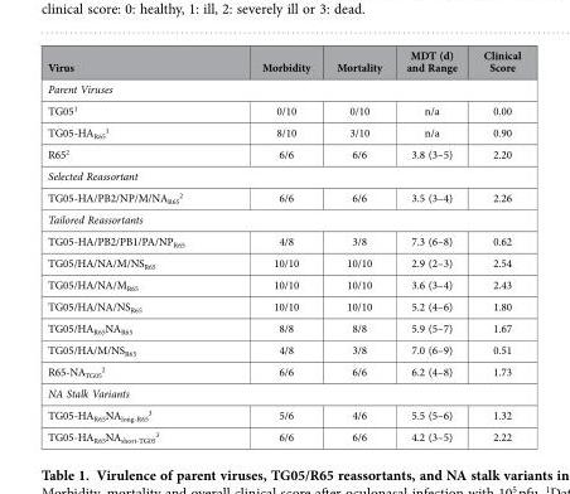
<table><thead><tr><td>Virus</td><td>Morbidity</td><td>Mortality</td><td>MDT (d) and Range</td><td>Clinical Score</td></tr></thead><tbody><tr><td colspan="5">Parent Viruses</td></tr><tr><td>TG05<sup>1</sup></td><td>0/10</td><td>0/10</td><td>n/a</td><td>0.00</td></tr><tr><td>TG05-HA<sub>R65</sub> <sup>1</sup></td><td>8/10</td><td>3/10</td><td>n/a</td><td>0.90</td></tr><tr><td>R65<sup>2</sup></td><td>6/6</td><td>6/6</td><td>3.8 (3–5)</td><td>2.20</td></tr><tr><td colspan="5">Selected Reassortant</td></tr><tr><td>TG05-HA/PB2/NP/M/NA<sub>R65</sub> <sup>2</sup></td><td>6/6</td><td>6/6</td><td>3.5 (3–4)</td><td>2.26</td></tr><tr><td colspan="5">Tailored Reassortants</td></tr><tr><td>TG05-HA/PB2/PB1/PA/NP<sub>R65</sub></td><td>4/8</td><td>3/8</td><td>7.3 (6–8)</td><td>0.62</td></tr><tr><td>TG05/HA/NA/M/NS<sub>R65</sub></td><td>10/10</td><td>10/10</td><td>2.9 (2–3)</td><td>2.54</td></tr><tr><td>TG05/HA/NA/M<sub>R65</sub></td><td>10/10</td><td>10/10</td><td>3.6 (3–4)</td><td>2.43</td></tr><tr><td>TG05/HA/NA/NS<sub>R65</sub></td><td>10/10</td><td>10/10</td><td>5.2 (4–6)</td><td>1.80</td></tr><tr><td>TG05/HA<sub>R65</sub>NA<sub>R65</sub></td><td>8/8</td><td>8/8</td><td>5.9 (5–7)</td><td>1.67</td></tr><tr><td>TG05/HA/M/NS<sub>R65</sub></td><td>4/8</td><td>3/8</td><td>7.0 (6–9)</td><td>0.51</td></tr><tr><td>R65-NA<sub>TG05</sub> <sup>2</sup></td><td>6/6</td><td>6/6</td><td>6.2 (4–8)</td><td>1.73</td></tr><tr><td colspan="5">NA Stalk Variants</td></tr><tr><td>TG05-HA<sub>R65</sub>NA<sub>long-R65</sub> <sup>3</sup></td><td>5/6</td><td>4/6</td><td>5.5 (5–6)</td><td>1.32</td></tr><tr><td>TG05-HA<sub>R65</sub>NA<sub>short-TG05</sub> <sup>3</sup></td><td>6/6</td><td>6/6</td><td>4.2 (3–5)</td><td>2.22</td></tr></tbody></table>